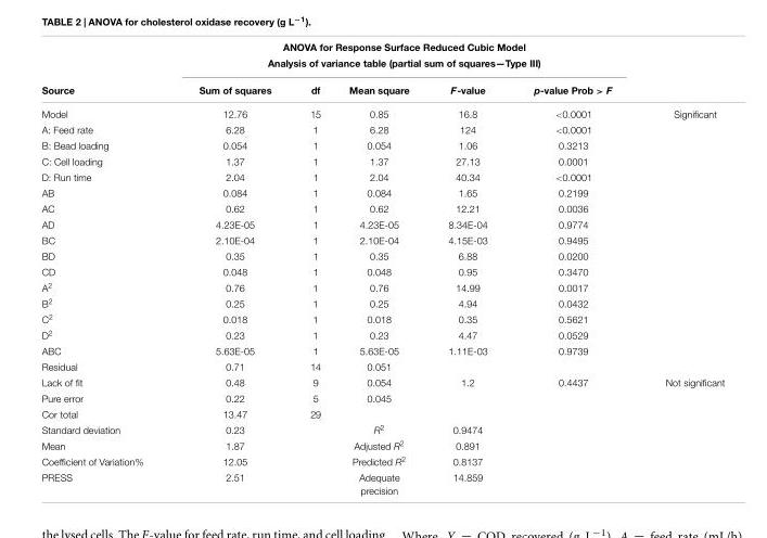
<table><thead><tr><td rowspan="3">Source</td><td rowspan="2" colspan="5">ANOVA for Response Surface Reduced Cubic Model Analysis of variance table (partial sum of squares—Type III)</td><td rowspan="3"></td></tr><tr></tr><tr><td>Sum of squares</td><td>df</td><td>Mean square</td><td>F-value</td><td>p-value Prob &gt; F</td></tr></thead><tbody><tr><td>Model</td><td>12.76</td><td>15</td><td>0.85</td><td>16.8</td><td>&lt;0.0001</td><td>Significant</td></tr><tr><td>A: Feed rate</td><td>6.28</td><td>1</td><td>6.28</td><td>124</td><td>&lt;0.0001</td><td></td></tr><tr><td>B: Bead loading</td><td>0.054</td><td>1</td><td>0.054</td><td>1.06</td><td>0.3213</td><td></td></tr><tr><td>C: Cell loading</td><td>1.37</td><td>1</td><td>1.37</td><td>27.13</td><td>0.0001</td><td></td></tr><tr><td>D: Run time</td><td>2.04</td><td>1</td><td>2.04</td><td>40.34</td><td>&lt;0.0001</td><td></td></tr><tr><td>AB</td><td>0.084</td><td>1</td><td>0.084</td><td>1.65</td><td>0.2199</td><td></td></tr><tr><td>AC</td><td>0.62</td><td>1</td><td>0.62</td><td>12.21</td><td>0.0036</td><td></td></tr><tr><td>AD</td><td>4.23E-05</td><td>1</td><td>4.23E-05</td><td>8.34E-04</td><td>0.9774</td><td></td></tr><tr><td>BC</td><td>2.10E-04</td><td>1</td><td>2.10E-04</td><td>4.15E-03</td><td>0.9495</td><td></td></tr><tr><td>BD</td><td>0.35</td><td>1</td><td>0.35</td><td>6.88</td><td>0.0200</td><td></td></tr><tr><td>CD</td><td>0.048</td><td>1</td><td>0.048</td><td>0.95</td><td>0.3470</td><td></td></tr><tr><td>A<sup>2</sup></td><td>0.76</td><td>1</td><td>0.76</td><td>14.99</td><td>0.0017</td><td></td></tr><tr><td>B<sup>2</sup></td><td>0.25</td><td>1</td><td>0.25</td><td>4.94</td><td>0.0432</td><td></td></tr><tr><td>C<sup>2</sup></td><td>0.018</td><td>1</td><td>0.018</td><td>0.35</td><td>0.5621</td><td></td></tr><tr><td>D<sup>2</sup></td><td>0.23</td><td>1</td><td>0.23</td><td>4.47</td><td>0.0529</td><td></td></tr><tr><td>ABC</td><td>5.63E-05</td><td>1</td><td>5.63E-05</td><td>1.11E-03</td><td>0.9739</td><td></td></tr><tr><td>Residual</td><td>0.71</td><td>14</td><td>0.051</td><td></td><td></td><td></td></tr><tr><td>Lack of fit</td><td>0.48</td><td>9</td><td>0.054</td><td>1.2</td><td>0.4437</td><td>Not significant</td></tr><tr><td>Pure error</td><td>0.22</td><td>5</td><td>0.045</td><td></td><td></td><td></td></tr><tr><td>Cor total</td><td>13.47</td><td>29</td><td></td><td></td><td></td><td></td></tr><tr><td>Standard deviation</td><td>0.23</td><td></td><td>R<sup>2</sup></td><td>0.9474</td><td></td><td></td></tr><tr><td>Mean</td><td>1.87</td><td></td><td>Adjusted R<sup>2</sup></td><td>0.891</td><td></td><td></td></tr><tr><td>Coefficient of Variation%</td><td>12.05</td><td></td><td>Predicted R<sup>2</sup></td><td>0.8137</td><td></td><td></td></tr><tr><td>PRESS</td><td>2.51</td><td></td><td>Adequate precision</td><td>14.859</td><td></td><td></td></tr></tbody></table>